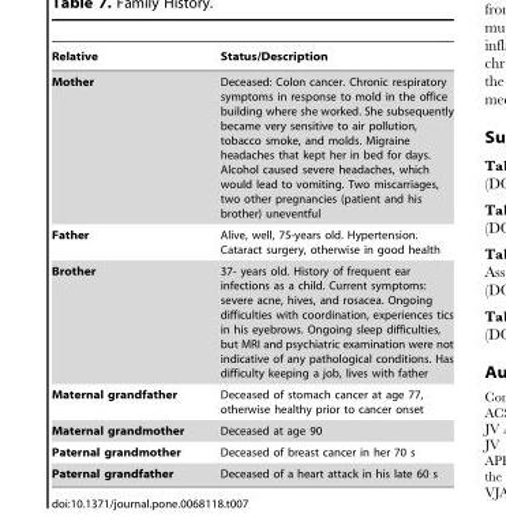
<table><thead><tr><td>Relative</td><td>Status/Description</td></tr></thead><tbody><tr><td>Mother</td><td>Deceased: Colon cancer. Chronic respiratory symptoms in response to mold in the office building where she worked. She subsequently became very sensitive to air pollution, tobacco smoke, and molds. Migraine headaches that kept her in bed for days. Alcohol caused severe headaches, which would lead to vomiting. Two miscarriages, two other pregnancies (patient and his brother) uneventful</td></tr><tr><td>Father</td><td>Alive, well, 75-years old. Hypertension. Cataract surgery, otherwise in good health</td></tr><tr><td>Brother</td><td>37- years old. History of frequent ear infections as a child. Current symptoms: severe acne, hives, and rosacea. Ongoing difficulties with coordination, experiences tics in his eyebrows. Ongoing sleep difficulties, but MRI and psychiatric examination were not indicative of any pathological conditions. Has difficulty keeping a job, lives with father</td></tr><tr><td>Maternal grandfather</td><td>Deceased of stomach cancer at age 77, otherwise healthy prior to cancer onset</td></tr><tr><td>Maternal grandmother</td><td>Deceased at age 90</td></tr><tr><td>Paternal grandmother</td><td>Deceased of breast cancer in her 70 s</td></tr><tr><td>Paternal grandfather</td><td>Deceased of a heart attack in his late 60 s</td></tr></tbody></table>